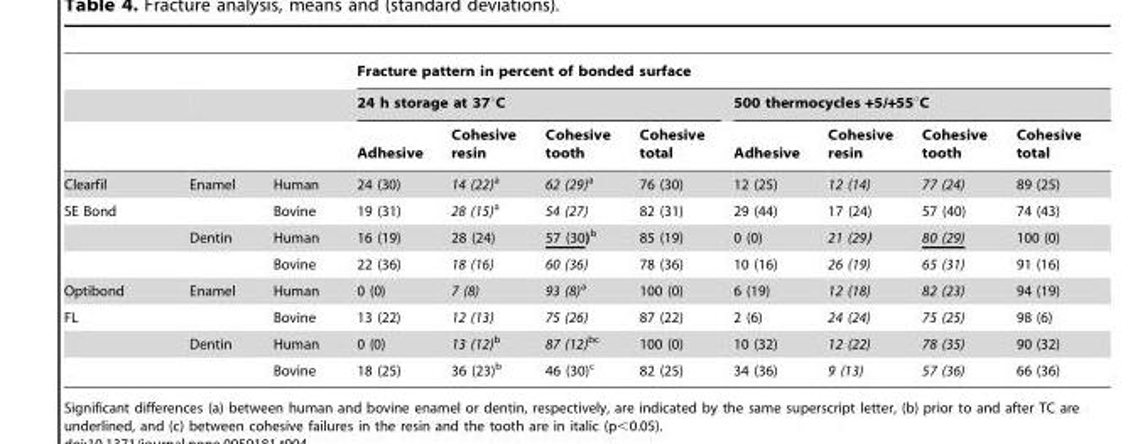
<table><thead><tr><td rowspan="3"></td><td rowspan="3"></td><td rowspan="3"></td><td colspan="8">Fracture pattern in percent of bonded surface</td></tr><tr><td colspan="4">24 h storage at 37°C</td><td colspan="4">500 thermocycles +5/+55°C</td></tr><tr><td>Adhesive</td><td>Cohesive resin</td><td>Cohesive tooth</td><td>Cohesive total</td><td>Adhesive</td><td>Cohesive resin</td><td>Cohesive tooth</td><td>Cohesive total</td></tr></thead><tbody><tr><td>Clearfil</td><td>Enamel</td><td>Human</td><td>24 (30)</td><td>14 (22)<sup>a</sup></td><td>62 (29)<sup>a</sup></td><td>76 (30)</td><td>12 (25)</td><td>12 (14)</td><td>77 (24)</td><td>89 (25)</td></tr><tr><td rowspan="3">SE Bond</td><td></td><td>Bovine</td><td>19 (31)</td><td>28 (15)<sup>a</sup></td><td>54 (27)</td><td>82 (31)</td><td>29 (44)</td><td>17 (24)</td><td>57 (40)</td><td>74 (43)</td></tr><tr><td>Dentin</td><td>Human</td><td>16 (19)</td><td>28 (24)</td><td>57 (30)<sup>b</sup></td><td>85 (19)</td><td>0 (0)</td><td>21 (29)</td><td>80 (29)</td><td>100 (0)</td></tr><tr><td></td><td>Bovine</td><td>22 (36)</td><td>18 (16)</td><td>60 (36)</td><td>78 (36)</td><td>10 (16)</td><td>26 (19)</td><td>65 (31)</td><td>91 (16)</td></tr><tr><td>Optibond</td><td>Enamel</td><td>Human</td><td>0 (0)</td><td>7 (8)</td><td>93 (8)<sup>a</sup></td><td>100 (0)</td><td>6 (19)</td><td>12 (18)</td><td>82 (23)</td><td>94 (19)</td></tr><tr><td rowspan="3">FL</td><td></td><td>Bovine</td><td>13 (22)</td><td>12 (13)</td><td>75 (26)</td><td>87 (22)</td><td>2 (6)</td><td>24 (24)</td><td>75 (25)</td><td>98 (6)</td></tr><tr><td>Dentin</td><td>Human</td><td>0 (0)</td><td>13 (12)<sup>b</sup></td><td>87 (12)<sup>bc</sup></td><td>100 (0)</td><td>10 (32)</td><td>12 (22)</td><td>78 (35)</td><td>90 (32)</td></tr><tr><td></td><td>Bovine</td><td>18 (25)</td><td>36 (23)<sup>b</sup></td><td>46 (30)<sup>c</sup></td><td>82 (25)</td><td>34 (36)</td><td>9 (13)</td><td>57 (36)</td><td>66 (36)</td></tr></tbody></table>